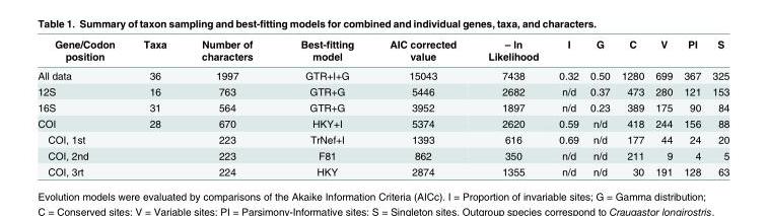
<table><thead><tr><td>Gene/Codon position</td><td>Taxa</td><td>Number of characters</td><td>Best-fitting model</td><td>AIC corrected value</td><td>– ln Likelihood</td><td>I</td><td>G</td><td>C</td><td>V</td><td>PI</td><td>S</td></tr></thead><tbody><tr><td>All data</td><td>36</td><td>1997</td><td>GTR+I+G</td><td>15043</td><td>7438</td><td>0.32</td><td>0.50</td><td>1280</td><td>699</td><td>367</td><td>325</td></tr><tr><td>12S</td><td>16</td><td>763</td><td>GTR+G</td><td>5446</td><td>2682</td><td>n/d</td><td>0.37</td><td>473</td><td>280</td><td>121</td><td>153</td></tr><tr><td>16S</td><td>31</td><td>564</td><td>GTR+G</td><td>3952</td><td>1897</td><td>n/d</td><td>0.23</td><td>389</td><td>175</td><td>90</td><td>84</td></tr><tr><td>COI</td><td>28</td><td>670</td><td>HKY+I</td><td>5374</td><td>2620</td><td>0.59</td><td>n/d</td><td>418</td><td>244</td><td>156</td><td>88</td></tr><tr><td>COI, 1st</td><td></td><td>223</td><td>TrNef+I</td><td>1393</td><td>616</td><td>0.69</td><td>n/d</td><td>177</td><td>44</td><td>24</td><td>20</td></tr><tr><td>COI, 2nd</td><td></td><td>223</td><td>F81</td><td>862</td><td>350</td><td>n/d</td><td>n/d</td><td>211</td><td>9</td><td>4</td><td>5</td></tr><tr><td>COI, 3rt</td><td></td><td>224</td><td>HKY</td><td>2874</td><td>1355</td><td>n/d</td><td>n/d</td><td>30</td><td>191</td><td>128</td><td>63</td></tr></tbody></table>